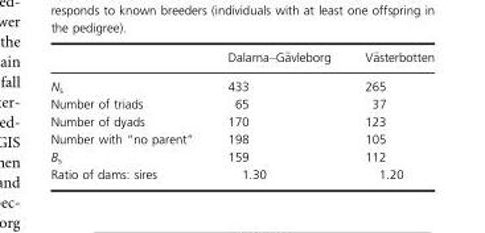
<table><thead><tr><td></td><td>Dalarna–G€avleborg</td><td>V€asterbotten</td></tr></thead><tbody><tr><td>N<sub>s</sub></td><td>433</td><td>265</td></tr><tr><td>Number of triads</td><td>65</td><td>37</td></tr><tr><td>Number of dyads</td><td>170</td><td>123</td></tr><tr><td>Number with “no parent”</td><td>198</td><td>105</td></tr><tr><td>B<sub>s</sub></td><td>159</td><td>112</td></tr><tr><td>Ratio of dams: sires</td><td>1.30</td><td>1.20</td></tr></tbody></table>